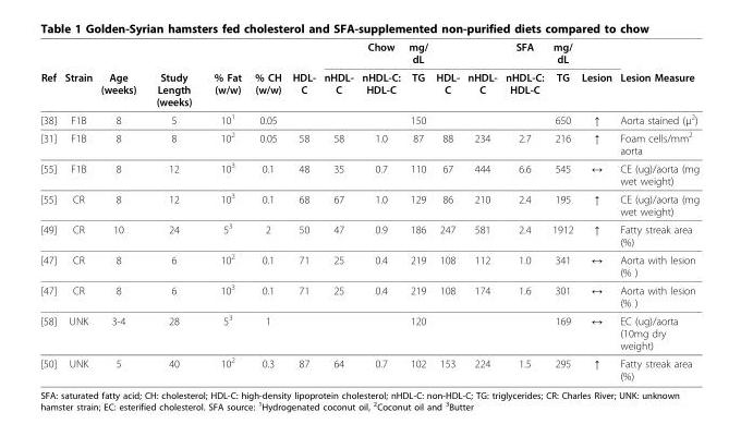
<table><thead><tr><td rowspan="2">Ref</td><td rowspan="2">Strain</td><td rowspan="2">Age (weeks)</td><td rowspan="2">Study Length (weeks)</td><td rowspan="2">% Fat (w/w)</td><td rowspan="2">% CH (w/w)</td><td rowspan="2">HDL- C</td><td rowspan="2">nHDL- C</td><td rowspan="2">Chow nHDL-C: HDL-C</td><td rowspan="2">mg/ dL TG</td><td rowspan="2">HDL- C</td><td rowspan="2">nHDL- C</td><td rowspan="2">SFA nHDL-C: HDL-C</td><td rowspan="2">mg/ dL TG</td><td rowspan="2">Lesion</td><td rowspan="2">Lesion Measure</td></tr><tr></tr></thead><tbody><tr><td>[38]</td><td>F1B</td><td>8</td><td>5</td><td>10<sup>1</sup></td><td>0.05</td><td></td><td></td><td></td><td>150</td><td></td><td></td><td></td><td>650</td><td>↑</td><td>Aorta stained (μ<sup>2</sup>)</td></tr><tr><td>[31]</td><td>F1B</td><td>8</td><td>8</td><td>10<sup>2</sup></td><td>0.05</td><td>58</td><td>58</td><td>1.0</td><td>87</td><td>88</td><td>234</td><td>2.7</td><td>216</td><td>↑</td><td>Foam cells/mm<sup>2</sup> aorta</td></tr><tr><td>[55]</td><td>F1B</td><td>8</td><td>12</td><td>10<sup>3</sup></td><td>0.1</td><td>48</td><td>35</td><td>0.7</td><td>110</td><td>67</td><td>444</td><td>6.6</td><td>545</td><td>↔</td><td>CE (ug)/aorta (mg wet weight)</td></tr><tr><td>[55]</td><td>CR</td><td>8</td><td>12</td><td>10<sup>3</sup></td><td>0.1</td><td>68</td><td>67</td><td>1.0</td><td>129</td><td>86</td><td>210</td><td>2.4</td><td>195</td><td>↑</td><td>CE (ug)/aorta (mg wet weight)</td></tr><tr><td>[49]</td><td>CR</td><td>10</td><td>24</td><td>5<sup>3</sup></td><td>2</td><td>50</td><td>47</td><td>0.9</td><td>186</td><td>247</td><td>581</td><td>2.4</td><td>1912</td><td>↑</td><td>Fatty streak area (%)</td></tr><tr><td>[47]</td><td>CR</td><td>8</td><td>6</td><td>10<sup>2</sup></td><td>0.1</td><td>71</td><td>25</td><td>0.4</td><td>219</td><td>108</td><td>112</td><td>1.0</td><td>341</td><td>↔</td><td>Aorta with lesion (% )</td></tr><tr><td>[47]</td><td>CR</td><td>8</td><td>6</td><td>10<sup>3</sup></td><td>0.1</td><td>71</td><td>25</td><td>0.4</td><td>219</td><td>108</td><td>174</td><td>1.6</td><td>301</td><td>↔</td><td>Aorta with lesion (% )</td></tr><tr><td>[58]</td><td>UNK</td><td>3-4</td><td>28</td><td>5<sup>3</sup></td><td>1</td><td></td><td></td><td></td><td>120</td><td></td><td></td><td></td><td>169</td><td>↔</td><td>EC (ug)/aorta (10mg dry weight)</td></tr><tr><td>[50]</td><td>UNK</td><td>5</td><td>40</td><td>10<sup>2</sup></td><td>0.3</td><td>87</td><td>64</td><td>0.7</td><td>102</td><td>153</td><td>224</td><td>1.5</td><td>295</td><td>↑</td><td>Fatty streak area (%)</td></tr></tbody></table>